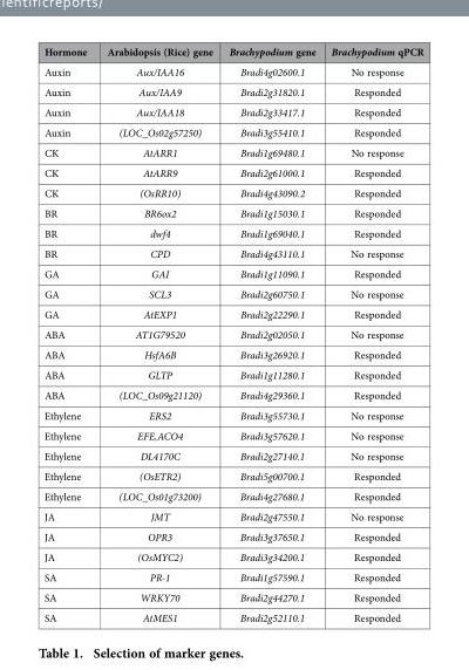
<table><thead><tr><td>Hormone</td><td>Arabidopsis (Rice) gene</td><td>Brachypodium gene</td><td>Brachypodium qPCR</td></tr></thead><tbody><tr><td>Auxin</td><td>Aux/IAA16</td><td>Bradi4g02600.1</td><td>No response</td></tr><tr><td>Auxin</td><td>Aux/IAA9</td><td>Bradi2g31820.1</td><td>Responded</td></tr><tr><td>Auxin</td><td>Aux/IAA18</td><td>Bradi2g33417.1</td><td>Responded</td></tr><tr><td>Auxin</td><td>(LOC_Os02g57250)</td><td>Bradi3g55410.1</td><td>Responded</td></tr><tr><td>CK</td><td>AtARR1</td><td>Bradi1g69480.1</td><td>No response</td></tr><tr><td>CK</td><td>AtARR9</td><td>Bradi2g61000.1</td><td>Responded</td></tr><tr><td>CK</td><td>(OsRR10)</td><td>Bradi4g43090.2</td><td>Responded</td></tr><tr><td>BR</td><td>BR6ox2</td><td>Bradi1g15030.1</td><td>Responded</td></tr><tr><td>BR</td><td>dwf4</td><td>Bradi1g69040.1</td><td>Responded</td></tr><tr><td>BR</td><td>CPD</td><td>Bradi4g43110.1</td><td>No response</td></tr><tr><td>GA</td><td>GAI</td><td>Bradi1g11090.1</td><td>Responded</td></tr><tr><td>GA</td><td>SCL3</td><td>Bradi2g60750.1</td><td>No response</td></tr><tr><td>GA</td><td>AtEXP1</td><td>Bradi2g22290.1</td><td>Responded</td></tr><tr><td>ABA</td><td>AT1G79520</td><td>Bradi2g02050.1</td><td>No response</td></tr><tr><td>ABA</td><td>HsfA6B</td><td>Bradi3g26920.1</td><td>Responded</td></tr><tr><td>ABA</td><td>GLTP</td><td>Bradi1g11280.1</td><td>Responded</td></tr><tr><td>ABA</td><td>(LOC_Os09g21120)</td><td>Bradi4g29360.1</td><td>Responded</td></tr><tr><td>Ethylene</td><td>ERS2</td><td>Bradi3g55730.1</td><td>No response</td></tr><tr><td>Ethylene</td><td>EFE,ACO4</td><td>Bradi3g57620.1</td><td>No response</td></tr><tr><td>Ethylene</td><td>DL4170C</td><td>Bradi2g27140.1</td><td>No response</td></tr><tr><td>Ethylene</td><td>(OsETR2)</td><td>Bradi5g00700.1</td><td>Responded</td></tr><tr><td>Ethylene</td><td>(LOC_Os01g73200)</td><td>Bradi4g27680.1</td><td>Responded</td></tr><tr><td>JA</td><td>JMT</td><td>Bradi2g47550.1</td><td>No response</td></tr><tr><td>JA</td><td>OPR3</td><td>Bradi3g37650.1</td><td>Responded</td></tr><tr><td>JA</td><td>(OsMYC2)</td><td>Bradi3g34200.1</td><td>Responded</td></tr><tr><td>SA</td><td>PR-1</td><td>Bradi1g57590.1</td><td>Responded</td></tr><tr><td>SA</td><td>WRKY70</td><td>Bradi2g44270.1</td><td>Responded</td></tr><tr><td>SA</td><td>AtMES1</td><td>Bradi2g52110.1</td><td>Responded</td></tr></tbody></table>